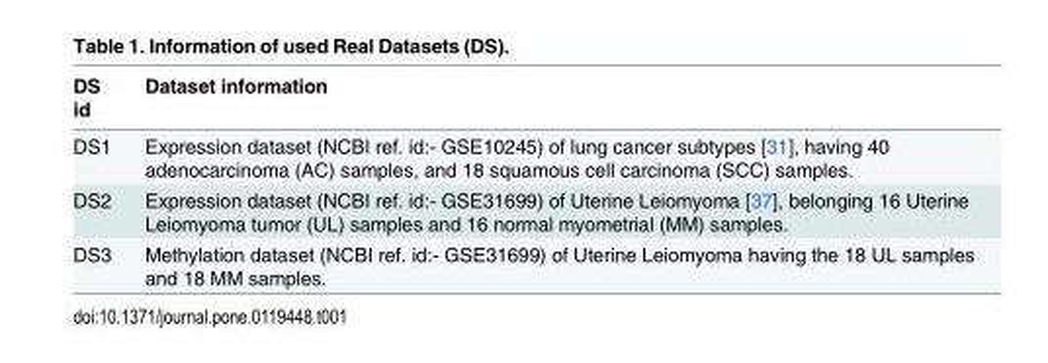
<table><thead><tr><td>DS id</td><td>Dataset information</td></tr></thead><tbody><tr><td>DS1</td><td>Expression dataset (NCBI ref. id:- GSE10245) of lung cancer subtypes [31], having 40 adenocarcinoma (AC) samples, and 18 squamous cell carcinoma (SCC) samples.</td></tr><tr><td>DS2</td><td>Expression dataset (NCBI ref. id:- GSE31699) of Uterine Leiomyoma [37], belonging 16 Uterine Leiomyoma tumor (UL) samples and 16 normal myometrial (MM) samples.</td></tr><tr><td>DS3</td><td>Methylation dataset (NCBI ref. id:- GSE31699) of Uterine Leiomyoma having the 18 UL samples and 18 MM samples.</td></tr></tbody></table>